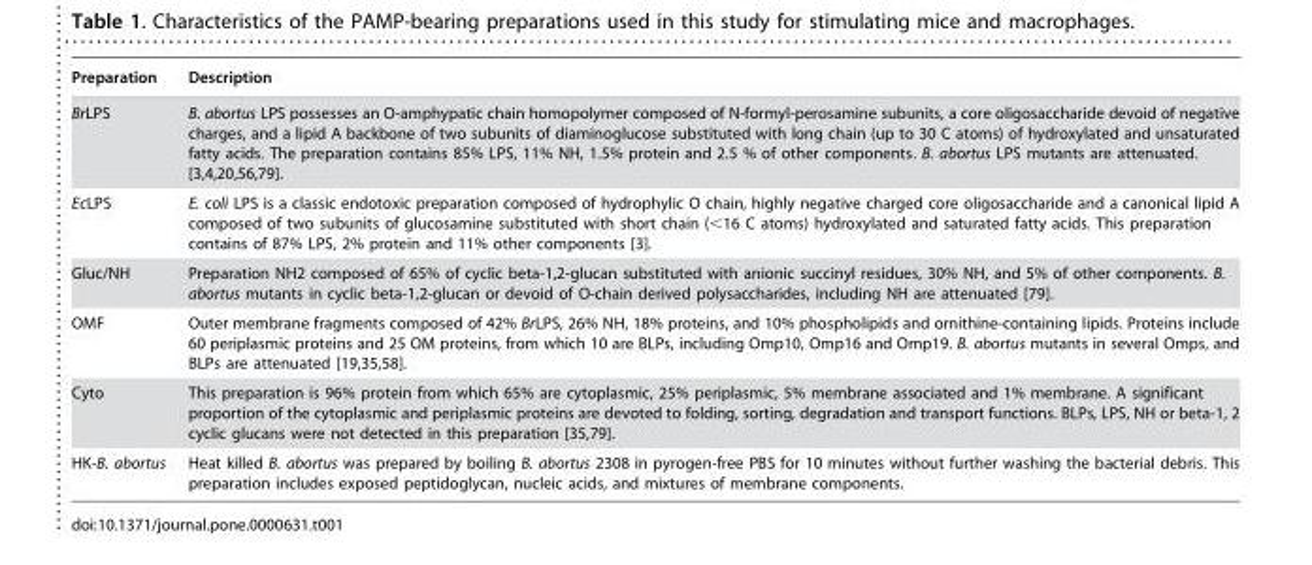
<table><thead><tr><td>Preparation</td><td>Description</td></tr></thead><tbody><tr><td>BrLPS</td><td>B. abortus LPS possesses an O-amphypatic chain homopolymer composed of N-formyl-perosamine subunits, a core oligosaccharide devoid of negative charges, and a lipid A backbone of two subunits of diaminoglucose substituted with long chain (up to 30 C atoms) of hydroxylated and unsaturated fatty acids. The preparation contains 85% LPS, 11% NH, 1.5% protein and 2.5 % of other components. B. abortus LPS mutants are attenuated. [3,4,20,56,79].</td></tr><tr><td>EcLPS</td><td>E. coli LPS is a classic endotoxic preparation composed of hydrophylic O chain, highly negative charged core oligosaccharide and a canonical lipid A composed of two subunits of glucosamine substituted with short chain (&lt;16 C atoms) hydroxylated and saturated fatty acids. This preparation contains of 87% LPS, 2% protein and 11% other components [3].</td></tr><tr><td>Gluc/NH</td><td>Preparation NH2 composed of 65% of cyclic beta-1,2-glucan substituted with anionic succinyl residues, 30% NH, and 5% of other components. B. abortus mutants in cyclic beta-1,2-glucan or devoid of O-chain derived polysaccharides, including NH are attenuated [79].</td></tr><tr><td>OMF</td><td>Outer membrane fragments composed of 42% BrLPS, 26% NH, 18% proteins, and 10% phospholipids and ornithine-containing lipids. Proteins include 60 periplasmic proteins and 25 OM proteins, from which 10 are BLPs, including Omp10, Omp16 and Omp19. B. abortus mutants in several Omps, and BLPs are attenuated [19,35,58].</td></tr><tr><td>Cyto</td><td>This preparation is 96% protein from which 65% are cytoplasmic, 25% periplasmic, 5% membrane associated and 1% membrane. A significant proportion of the cytoplasmic and periplasmic proteins are devoted to folding, sorting, degradation and transport functions. BLPs, LPS, NH or beta-1, 2 cyclic glucans were not detected in this preparation [35,79].</td></tr><tr><td>HK-B. abortus</td><td>Heat killed B. abortus was prepared by boiling B. abortus 2308 in pyrogen-free PBS for 10 minutes without further washing the bacterial debris. This preparation includes exposed peptidoglycan, nucleic acids, and mixtures of membrane components.</td></tr></tbody></table>